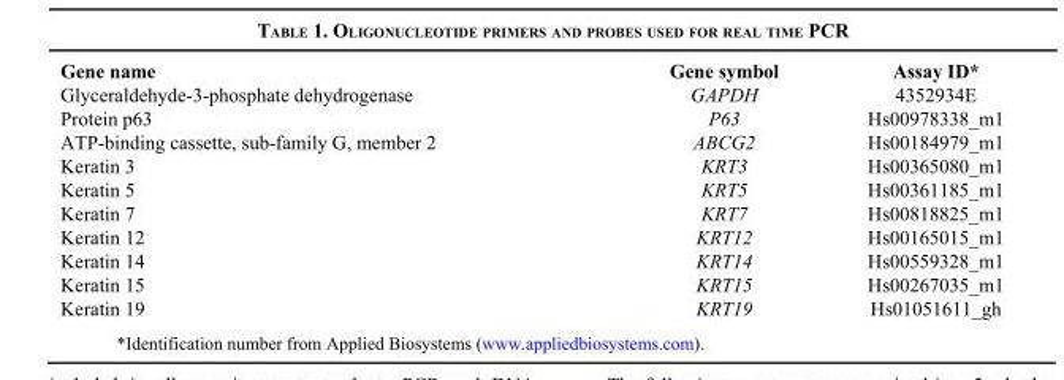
<table><thead><tr><td>Gene name</td><td>Gene symbol</td><td>Assay ID*</td></tr></thead><tbody><tr><td>Glyceraldehyde-3-phosphate dehydrogenase</td><td>GAPDH</td><td>4352934E</td></tr><tr><td>Protein p63</td><td>P63</td><td>Hs00978338_m1</td></tr><tr><td>ATP-binding cassette, sub-family G, member 2</td><td>ABCG2</td><td>Hs00184979_m1</td></tr><tr><td>Keratin 3</td><td>KRT3</td><td>Hs00365080_m1</td></tr><tr><td>Keratin 5</td><td>KRT5</td><td>Hs00361185_m1</td></tr><tr><td>Keratin 7</td><td>KRT7</td><td>Hs00818825_m1</td></tr><tr><td>Keratin 12</td><td>KRT12</td><td>Hs00165015_m1</td></tr><tr><td>Keratin 14</td><td>KRT14</td><td>Hs00559328_m1</td></tr><tr><td>Keratin 15</td><td>KRT15</td><td>Hs00267035_m1</td></tr><tr><td>Keratin 19</td><td>KRT19</td><td>Hs01051611_gh</td></tr></tbody></table>